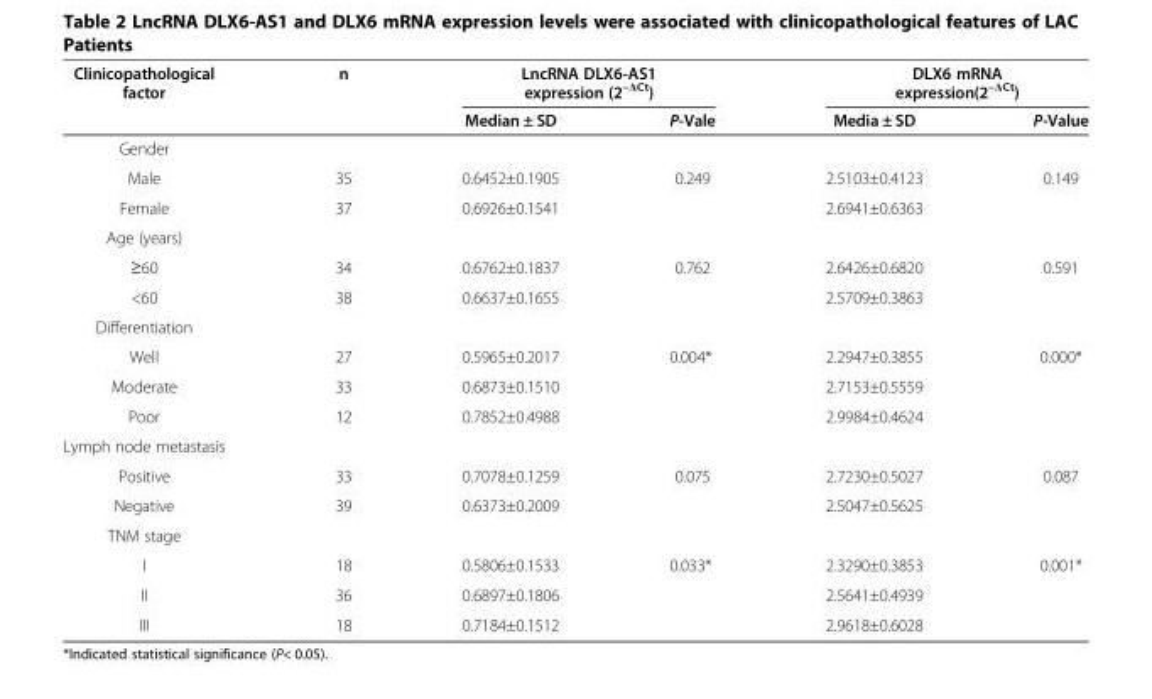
<table><thead><tr><td rowspan="2">Clinicopathological factor</td><td rowspan="2">n</td><td colspan="2">LncRNA DLX6-AS1 expression (2<sup>–ΔCt</sup>)</td><td colspan="2">DLX6 mRNA expression(2<sup>–ΔCt</sup>)</td></tr><tr><td>Median ± SD</td><td>P-Vale</td><td>Media ± SD</td><td>P-Value</td></tr></thead><tbody><tr><td colspan="6">Gender</td></tr><tr><td>Male</td><td>35</td><td>0.6452±0.1905</td><td>0.249</td><td>2.5103±0.4123</td><td>0.149</td></tr><tr><td>Female</td><td>37</td><td>0.6926±0.1541</td><td></td><td>2.6941±0.6363</td><td></td></tr><tr><td colspan="6">Age (years)</td></tr><tr><td>≥60</td><td>34</td><td>0.6762±0.1837</td><td>0.762</td><td>2.6426±0.6820</td><td>0.591</td></tr><tr><td>&lt;60</td><td>38</td><td>0.6637±0.1655</td><td></td><td>2.5709±0.3863</td><td></td></tr><tr><td colspan="6">Differentiation</td></tr><tr><td>Well</td><td>27</td><td>0.5965±0.2017</td><td rowspan="2">0.004*</td><td>2.2947±0.3855</td><td rowspan="2">0.000*</td></tr><tr><td>Moderate</td><td>33</td><td>0.6873±0.1510</td><td>2.7153±0.5559</td></tr><tr><td>Poor</td><td>12</td><td>0.7852±0.4988</td><td></td><td>2.9984±0.4624</td><td></td></tr><tr><td colspan="6">Lymph node metastasis</td></tr><tr><td>Positive</td><td>33</td><td>0.7078±0.1259</td><td>0.075</td><td>2.7230±0.5027</td><td>0.087</td></tr><tr><td>Negative</td><td>39</td><td>0.6373±0.2009</td><td></td><td>2.5047±0.5625</td><td></td></tr><tr><td colspan="6">TNM stage</td></tr><tr><td>I</td><td>18</td><td>0.5806±0.1533</td><td rowspan="3">0.033*</td><td>2.3290±0.3853</td><td rowspan="3">0.001*</td></tr><tr><td>II</td><td>36</td><td>0.6897±0.1806</td><td>2.5641±0.4939</td></tr><tr><td>III</td><td>18</td><td>0.7184±0.1512</td><td>2.9618±0.6028</td></tr></tbody></table>